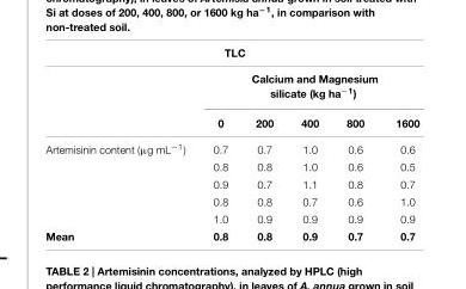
<table><thead><tr><td colspan="6">TLC</td></tr><tr><td rowspan="2"></td><td colspan="5">Calcium and Magnesium silicate (kg ha<sup>−1</sup>)</td></tr><tr><td>0</td><td>200</td><td>400</td><td>800</td><td>1600</td></tr></thead><tbody><tr><td rowspan="5">Artemisinin content (µg mL<sup>−1</sup>)</td><td>0.7</td><td>0.7</td><td>1.0</td><td>0.6</td><td>0.6</td></tr><tr><td>0.8</td><td>0.8</td><td>1.0</td><td>0.6</td><td>0.5</td></tr><tr><td>0.9</td><td>0.7</td><td>1.1</td><td>0.8</td><td>0.7</td></tr><tr><td>0.8</td><td>0.8</td><td>0.7</td><td>0.6</td><td>1.0</td></tr><tr><td>1.0</td><td>0.9</td><td>0.9</td><td>0.9</td><td>0.9</td></tr><tr><td>Mean</td><td>0.8</td><td>0.8</td><td>0.9</td><td>0.7</td><td>0.7</td></tr></tbody></table>